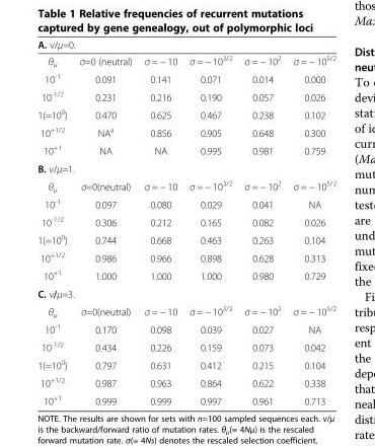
<table><thead><tr><td>A. v/μ=0.</td><td></td><td></td><td></td><td></td><td></td></tr></thead><tbody><tr><td>θ<sub>μ</sub></td><td>σ=0 (neutral)</td><td>σ = − 10</td><td>σ = − 10<sup>3/2</sup></td><td>σ = − 10<sup>2</sup></td><td>σ = − 10<sup>5/2</sup></td></tr><tr><td>10<sup>-1</sup></td><td>0.091</td><td>0.141</td><td>0.071</td><td>0.014</td><td>0.000</td></tr><tr><td>10<sup>-1/2</sup></td><td>0.231</td><td>0.216</td><td>0.190</td><td>0.057</td><td>0.026</td></tr><tr><td>1(=10<sup>0</sup>)</td><td>0.470</td><td>0.625</td><td>0.467</td><td>0.238</td><td>0.102</td></tr><tr><td>10<sup>+1/2</sup></td><td>NA<sup>a</sup></td><td>0.856</td><td>0.905</td><td>0.648</td><td>0.300</td></tr><tr><td>10<sup>+1</sup></td><td>NA</td><td>NA</td><td>0.995</td><td>0.981</td><td>0.759</td></tr><tr><td colspan="6">B. v/μ=1.</td></tr><tr><td>θ<sub>μ</sub></td><td>σ=0(neutral)</td><td>σ = − 10</td><td>σ = − 10<sup>3/2</sup></td><td>σ = − 10<sup>2</sup></td><td>σ = − 10<sup>5/2</sup></td></tr><tr><td>10<sup>-1</sup></td><td>0.097</td><td>0.080</td><td>0.029</td><td>0.041</td><td>NA</td></tr><tr><td>10<sup>-1/2</sup></td><td>0.306</td><td>0.212</td><td>0.165</td><td>0.082</td><td>0.026</td></tr><tr><td>1(=10<sup>0</sup>)</td><td>0.744</td><td>0.668</td><td>0.463</td><td>0.263</td><td>0.104</td></tr><tr><td>10<sup>+1/2</sup></td><td>0.986</td><td>0.966</td><td>0.898</td><td>0.628</td><td>0.313</td></tr><tr><td>10<sup>+1</sup></td><td>1.000</td><td>1.000</td><td>1.000</td><td>0.980</td><td>0.729</td></tr><tr><td colspan="6">C. v/μ=3.</td></tr><tr><td>θ<sub>μ</sub></td><td>σ=0(neutral)</td><td>σ = − 10</td><td>σ = − 10<sup>3/2</sup></td><td>σ = − 10<sup>2</sup></td><td>σ = − 10<sup>5/2</sup></td></tr><tr><td>10<sup>-1</sup></td><td>0.170</td><td>0.098</td><td>0.039</td><td>0.027</td><td>NA</td></tr><tr><td>10<sup>-1/2</sup></td><td>0.434</td><td>0.226</td><td>0.159</td><td>0.073</td><td>0.042</td></tr><tr><td>1(=10<sup>0</sup>)</td><td>0.797</td><td>0.631</td><td>0.412</td><td>0.215</td><td>0.104</td></tr><tr><td>10<sup>+1/2</sup></td><td>0.987</td><td>0.963</td><td>0.864</td><td>0.622</td><td>0.338</td></tr><tr><td>10<sup>+1</sup></td><td>0.999</td><td>0.999</td><td>0.997</td><td>0.961</td><td>0.713</td></tr></tbody></table>